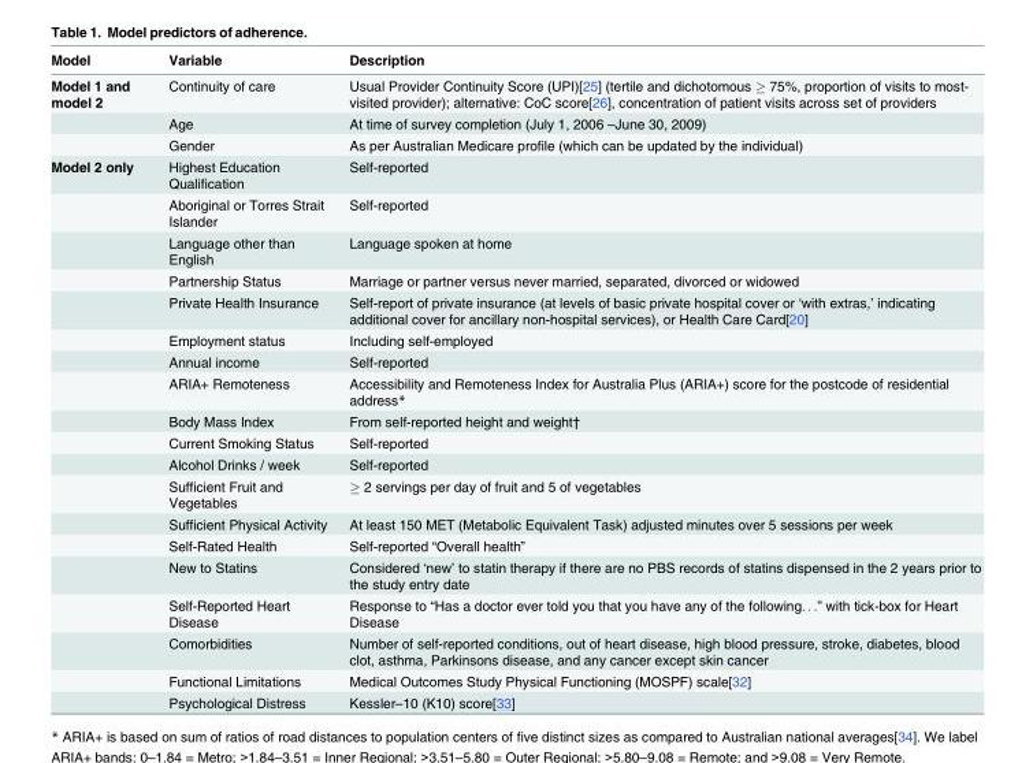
<table><thead><tr><td>Model</td><td>Variable</td><td>Description</td></tr></thead><tbody><tr><td rowspan="3">Model 1 and model 2</td><td>Continuity of care</td><td>Usual Provider Continuity Score (UPI)[25] (tertile and dichotomous ≥ 75%, proportion of visits to most- visited provider); alternative: CoC score[26], concentration of patient visits across set of providers</td></tr><tr><td>Age</td><td>At time of survey completion (July 1, 2006 –June 30, 2009)</td></tr><tr><td>Gender</td><td>As per Australian Medicare profile (which can be updated by the individual)</td></tr><tr><td rowspan="19">Model 2 only</td><td>Highest Education Qualification</td><td>Self-reported</td></tr><tr><td>Aboriginal or Torres Strait Islander</td><td>Self-reported</td></tr><tr><td>Language other than English</td><td>Language spoken at home</td></tr><tr><td>Partnership Status</td><td>Marriage or partner versus never married, separated, divorced or widowed</td></tr><tr><td>Private Health Insurance</td><td>Self-report of private insurance (at levels of basic private hospital cover or ‘with extras,’ indicating additional cover for ancillary non-hospital services), or Health Care Card[20]</td></tr><tr><td>Employment status</td><td>Including self-employed</td></tr><tr><td>Annual income</td><td>Self-reported</td></tr><tr><td>ARIA+ Remoteness</td><td>Accessibility and Remoteness Index for Australia Plus (ARIA+) score for the postcode of residential address*</td></tr><tr><td>Body Mass Index</td><td>From self-reported height and weight†</td></tr><tr><td>Current Smoking Status</td><td>Self-reported</td></tr><tr><td>Alcohol Drinks / week</td><td>Self-reported</td></tr><tr><td>Sufficient Fruit and Vegetables</td><td>≥ 2 servings per day of fruit and 5 of vegetables</td></tr><tr><td>Sufficient Physical Activity</td><td>At least 150 MET (Metabolic Equivalent Task) adjusted minutes over 5 sessions per week</td></tr><tr><td>Self-Rated Health</td><td>Self-reported “Overall health”</td></tr><tr><td>New to Statins</td><td>Considered ‘new’ to statin therapy if there are no PBS records of statins dispensed in the 2 years prior to the study entry date</td></tr><tr><td>Self-Reported Heart Disease</td><td>Response to “Has a doctor ever told you that you have any of the following. . .” with tick-box for Heart Disease</td></tr><tr><td>Comorbidities</td><td>Number of self-reported conditions, out of heart disease, high blood pressure, stroke, diabetes, blood clot, asthma, Parkinsons disease, and any cancer except skin cancer</td></tr><tr><td>Functional Limitations</td><td>Medical Outcomes Study Physical Functioning (MOSPF) scale[32]</td></tr><tr><td>Psychological Distress</td><td>Kessler–10 (K10) score[33]</td></tr></tbody></table>